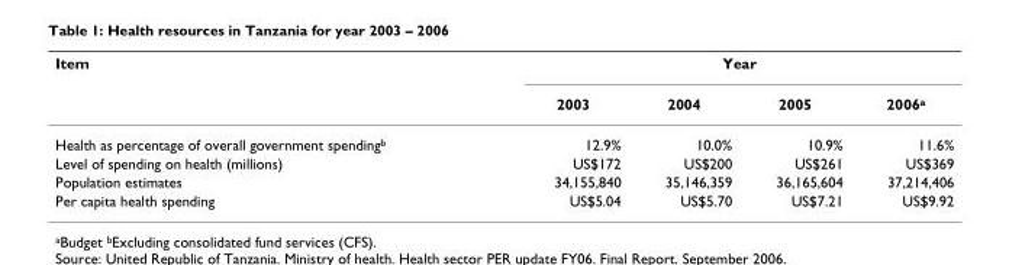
<table><thead><tr><td rowspan="2">Item</td><td colspan="4">Year</td></tr><tr><td>2003</td><td>2004</td><td>2005</td><td>2006<sup>a</sup></td></tr></thead><tbody><tr><td>Health as percentage of overall government spending<sup>b</sup></td><td>12.9%</td><td>10.0%</td><td>10.9%</td><td>11.6%</td></tr><tr><td>Level of spending on health (millions)</td><td>US$172</td><td>US$200</td><td>US$261</td><td>US$369</td></tr><tr><td>Population estimates</td><td>34,155,840</td><td>35,146,359</td><td>36,165,604</td><td>37,214,406</td></tr><tr><td>Per capita health spending</td><td>US$5.04</td><td>US$5.70</td><td>US$7.21</td><td>US$9.92</td></tr></tbody></table>